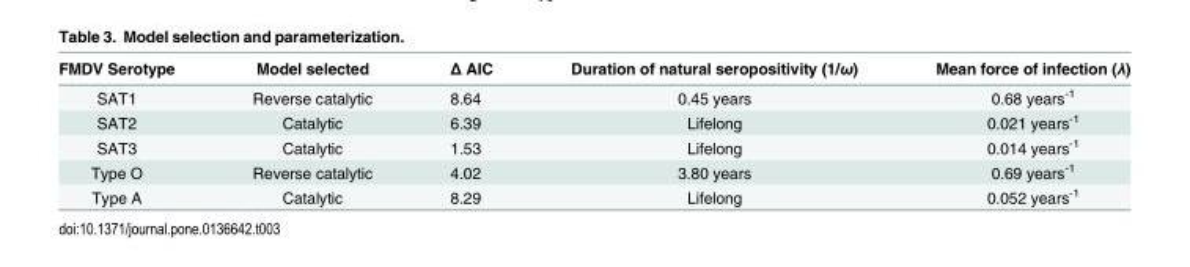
<table><thead><tr><td>FMDV Serotype</td><td>Model selected</td><td>Δ AIC</td><td>Duration of natural seropositivity (1/ω)</td><td>Mean force of infection (λ)</td></tr></thead><tbody><tr><td>SAT1</td><td>Reverse catalytic</td><td>8.64</td><td>0.45 years</td><td>0.68 years<sup>-1</sup></td></tr><tr><td>SAT2</td><td>Catalytic</td><td>6.39</td><td>Lifelong</td><td>0.021 years<sup>-1</sup></td></tr><tr><td>SAT3</td><td>Catalytic</td><td>1.53</td><td>Lifelong</td><td>0.014 years<sup>-1</sup></td></tr><tr><td>Type O</td><td>Reverse catalytic</td><td>4.02</td><td>3.80 years</td><td>0.69 years<sup>-1</sup></td></tr><tr><td>Type A</td><td>Catalytic</td><td>8.29</td><td>Lifelong</td><td>0.052 years<sup>-1</sup></td></tr></tbody></table>